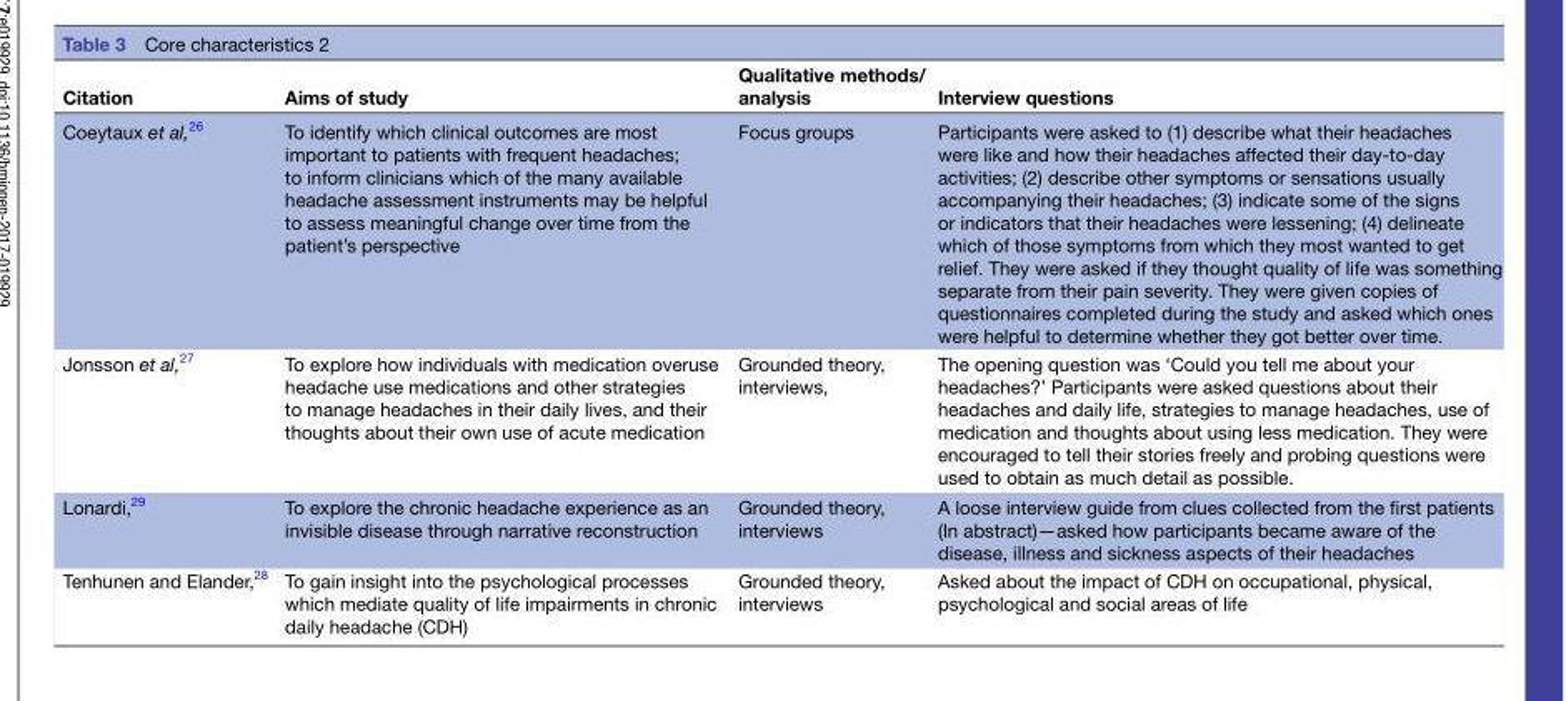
<table><thead><tr><td>Citation</td><td>Aims of study</td><td>Qualitative methods/ analysis</td><td>Interview questions</td></tr></thead><tbody><tr><td>Coeytaux et al,<sup>26</sup></td><td>To identify which clinical outcomes are most important to patients with frequent headaches; to inform clinicians which of the many available headache assessment instruments may be helpful to assess meaningful change over time from the patient’s perspective</td><td>Focus groups</td><td>Participants were asked to (1) describe what their headaches were like and how their headaches affected their day-to-day activities; (2) describe other symptoms or sensations usually accompanying their headaches; (3) indicate some of the signs or indicators that their headaches were lessening; (4) delineate which of those symptoms from which they most wanted to get relief. They were asked if they thought quality of life was something separate from their pain severity. They were given copies of questionnaires completed during the study and asked which ones were helpful to determine whether they got better over time.</td></tr><tr><td>Jonsson et al,<sup>27</sup></td><td>To explore how individuals with medication overuse headache use medications and other strategies to manage headaches in their daily lives, and their thoughts about their own use of acute medication</td><td>Grounded theory, interviews,</td><td>The opening question was ‘Could you tell me about your headaches?’ Participants were asked questions about their headaches and daily life, strategies to manage headaches, use of medication and thoughts about using less medication. They were encouraged to tell their stories freely and probing questions were used to obtain as much detail as possible.</td></tr><tr><td>Lonardi,<sup>29</sup></td><td>To explore the chronic headache experience as an invisible disease through narrative reconstruction</td><td>Grounded theory, interviews</td><td>A loose interview guide from clues collected from the first patients (In abstract)—asked how participants became aware of the disease, illness and sickness aspects of their headaches</td></tr><tr><td>Tenhunen and Elander,<sup>28</sup></td><td>To gain insight into the psychological processes which mediate quality of life impairments in chronic daily headache (CDH)</td><td>Grounded theory, interviews</td><td>Asked about the impact of CDH on occupational, physical, psychological and social areas of life</td></tr></tbody></table>